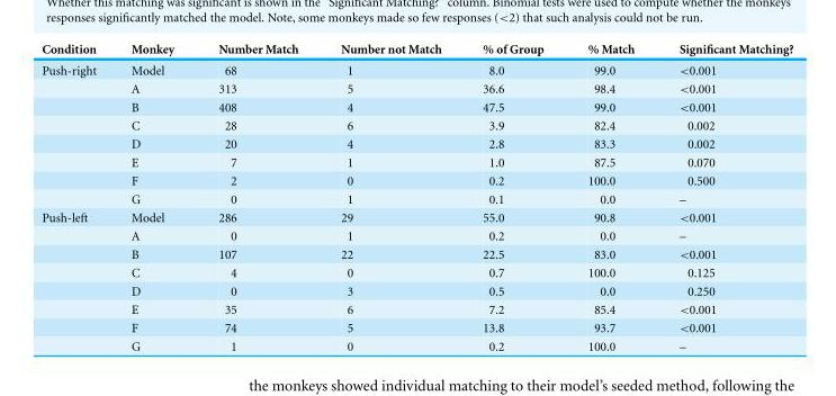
<table><thead><tr><td>Condition</td><td>Monkey</td><td>Number Match</td><td>Number not Match</td><td>% of Group</td><td>% Match</td><td>Significant Matching?</td></tr></thead><tbody><tr><td rowspan="8">Push-right</td><td>Model</td><td>68</td><td>1</td><td>8.0</td><td>99.0</td><td>&lt;0.001</td></tr><tr><td>A</td><td>313</td><td>5</td><td>36.6</td><td>98.4</td><td>&lt;0.001</td></tr><tr><td>B</td><td>408</td><td>4</td><td>47.5</td><td>99.0</td><td>&lt;0.001</td></tr><tr><td>C</td><td>28</td><td>6</td><td>3.9</td><td>82.4</td><td>0.002</td></tr><tr><td>D</td><td>20</td><td>4</td><td>2.8</td><td>83.3</td><td>0.002</td></tr><tr><td>E</td><td>7</td><td>1</td><td>1.0</td><td>87.5</td><td>0.070</td></tr><tr><td>F</td><td>2</td><td>0</td><td>0.2</td><td>100.0</td><td>0.500</td></tr><tr><td>G</td><td>0</td><td>1</td><td>0.1</td><td>0.0</td><td>–</td></tr><tr><td rowspan="8">Push-left</td><td>Model</td><td>286</td><td>29</td><td>55.0</td><td>90.8</td><td>&lt;0.001</td></tr><tr><td>A</td><td>0</td><td>1</td><td>0.2</td><td>0.0</td><td>–</td></tr><tr><td>B</td><td>107</td><td>22</td><td>22.5</td><td>83.0</td><td>&lt;0.001</td></tr><tr><td>C</td><td>4</td><td>0</td><td>0.7</td><td>100.0</td><td>0.125</td></tr><tr><td>D</td><td>0</td><td>3</td><td>0.5</td><td>0.0</td><td>0.250</td></tr><tr><td>E</td><td>35</td><td>6</td><td>7.2</td><td>85.4</td><td>&lt;0.001</td></tr><tr><td>F</td><td>74</td><td>5</td><td>13.8</td><td>93.7</td><td>&lt;0.001</td></tr><tr><td>G</td><td>1</td><td>0</td><td>0.2</td><td>100.0</td><td>–</td></tr></tbody></table>